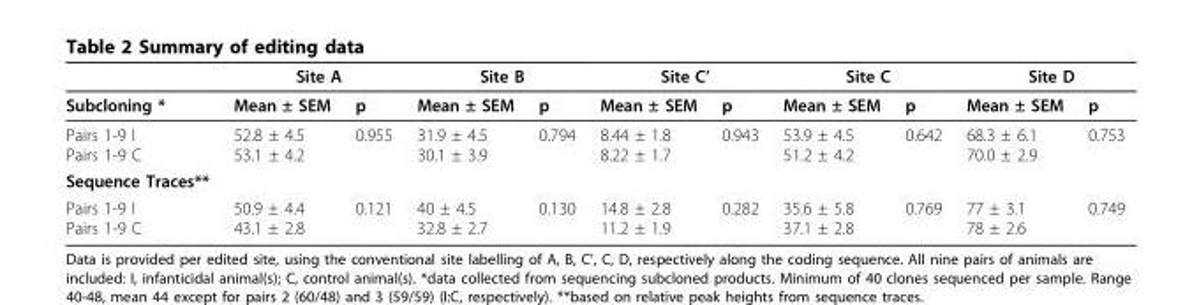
<table><thead><tr><td rowspan="2">Subcloning *</td><td colspan="2">Site A</td><td colspan="2">Site B</td><td colspan="2">Site C’</td><td colspan="2">Site C</td><td colspan="2">Site D</td></tr><tr><td>Mean ± SEM</td><td>p</td><td>Mean ± SEM</td><td>p</td><td>Mean ± SEM</td><td>p</td><td>Mean ± SEM</td><td>p</td><td>Mean ± SEM</td><td>p</td></tr></thead><tbody><tr><td>Pairs 1-9 I Pairs 1-9 C</td><td>52.8 ± 4.5 53.1 ± 4.2</td><td>0.955</td><td>31.9 ± 4.5 30.1 ± 3.9</td><td>0.794</td><td>8.44 ± 1.8 8.22 ± 1.7</td><td>0.943</td><td>53.9 ± 4.5 51.2 ± 4.2</td><td>0.642</td><td>68.3 ± 6.1 70.0 ± 2.9</td><td>0.753</td></tr><tr><td colspan="11">Sequence Traces**</td></tr><tr><td>Pairs 1-9 I Pairs 1-9 C</td><td>50.9 ± 4.4 43.1 ± 2.8</td><td>0.121</td><td>40 ± 4.5 32.8 ± 2.7</td><td>0.130</td><td>14.8 ± 2.8 11.2 ± 1.9</td><td>0.282</td><td>35.6 ± 5.8 37.1 ± 2.8</td><td>0.769</td><td>77 ± 3.1 78 ± 2.6</td><td>0.749</td></tr></tbody></table>